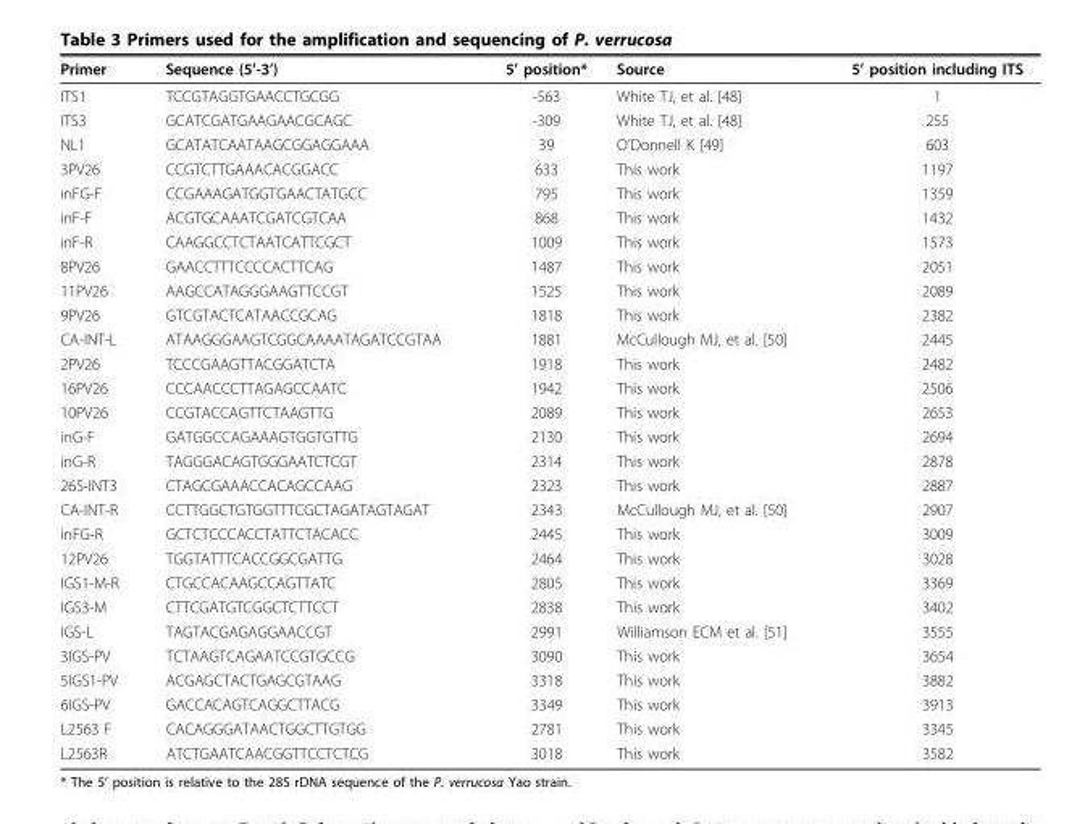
<table><tbody><tr><td>Primer</td><td>Sequence (5’-3’)</td><td>5’ position*</td><td>Source</td><td>5’ position including ITS</td></tr><tr><td>ITS1</td><td>TCCGTAGGTGAACCTGCGG</td><td>-563</td><td>White TJ, et al. [48]</td><td>1</td></tr><tr><td>ITS3</td><td>GCATCGATGAAGAACGCAGC</td><td>-309</td><td>White TJ, et al. [48]</td><td>255</td></tr><tr><td>NL1</td><td>GCATATCAATAAGCGGAGGAAA</td><td>39</td><td>O’Donnell K [49]</td><td>603</td></tr><tr><td>3PV26</td><td>CCGTCTTGAAACACGGACC</td><td>633</td><td>This work</td><td>1197</td></tr><tr><td>inFG-F</td><td>CCGAAAGATGGTGAACTATGCC</td><td>795</td><td>This work</td><td>1359</td></tr><tr><td>inF-F</td><td>ACGTGCAAATCGATCGTCAA</td><td>868</td><td>This work</td><td>1432</td></tr><tr><td>inF-R</td><td>CAAGGCCTCTAATCATTCGCT</td><td>1009</td><td>This work</td><td>1573</td></tr><tr><td>8PV26</td><td>GAACCTTTCCCCACTTCAG</td><td>1487</td><td>This work</td><td>2051</td></tr><tr><td>11PV26</td><td>AAGCCATAGGGAAGTTCCGT</td><td>1525</td><td>This work</td><td>2089</td></tr><tr><td>9PV26</td><td>GTCGTACTCATAACCGCAG</td><td>1818</td><td>This work</td><td>2382</td></tr><tr><td>CA-INT-L</td><td>ATAAGGGAAGTCGGCAAAATAGATCCGTAA</td><td>1881</td><td>McCullough MJ, et al. [50]</td><td>2445</td></tr><tr><td>2PV26</td><td>TCCCGAAGTTACGGATCTA</td><td>1918</td><td>This work</td><td>2482</td></tr><tr><td>16PV26</td><td>CCCAACCCTTAGAGCCAATC</td><td>1942</td><td>This work</td><td>2506</td></tr><tr><td>10PV26</td><td>CCGTACCAGTTCTAAGTTG</td><td>2089</td><td>This work</td><td>2653</td></tr><tr><td>inG-F</td><td>GATGGCCAGAAAGTGGTGTTG</td><td>2130</td><td>This work</td><td>2694</td></tr><tr><td>inG-R</td><td>TAGGGACAGTGGGAATCTCGT</td><td>2314</td><td>This work</td><td>2878</td></tr><tr><td>26S-INT3</td><td>CTAGCGAAACCACAGCCAAG</td><td>2323</td><td>This work</td><td>2887</td></tr><tr><td>CA-INT-R</td><td>CCTTGGCTGTGGTTTCGCTAGATAGTAGAT</td><td>2343</td><td>McCullough MJ, et al. [50]</td><td>2907</td></tr><tr><td>inFG-R</td><td>GCTCTCCCACCTATTCTACACC</td><td>2445</td><td>This work</td><td>3009</td></tr><tr><td>12PV26</td><td>TGGTATTTCACCGGCGATTG</td><td>2464</td><td>This work</td><td>3028</td></tr><tr><td>IGS1-M-R</td><td>CTGCCACAAGCCAGTTATC</td><td>2805</td><td>This work</td><td>3369</td></tr><tr><td>IGS3-M</td><td>CTTCGATGTCGGCTCTTCCT</td><td>2838</td><td>This work</td><td>3402</td></tr><tr><td>IGS-L</td><td>TAGTACGAGAGGAACCGT</td><td>2991</td><td>Williamson ECM et al. [51]</td><td>3555</td></tr><tr><td>3IGS-PV</td><td>TCTAAGTCAGAATCCGTGCCG</td><td>3090</td><td>This work</td><td>3654</td></tr><tr><td>5IGS1-PV</td><td>ACGAGCTACTGAGCGTAAG</td><td>3318</td><td>This work</td><td>3882</td></tr><tr><td>6IGS-PV</td><td>GACCACAGTCAGGCTTACG</td><td>3349</td><td>This work</td><td>3913</td></tr><tr><td>L2563 F</td><td>CACAGGGATAACTGGCTTGTGG</td><td>2781</td><td>This work</td><td>3345</td></tr><tr><td>L2563R</td><td>ATCTGAATCAACGGTTCCTCTCG</td><td>3018</td><td>This work</td><td>3582</td></tr></tbody></table>